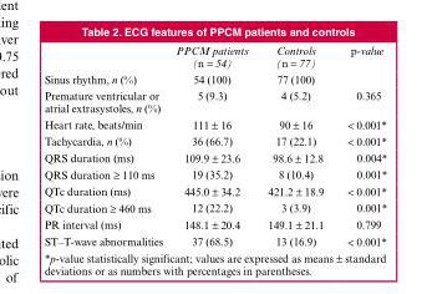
<table><thead><tr><td></td><td>PPCM patients (n = 54)</td><td>Controls (n = 77)</td><td>p-value</td></tr></thead><tbody><tr><td>Sinus rhythm, n (%)</td><td>54 (100)</td><td>77 (100)</td><td></td></tr><tr><td>Premature ventricular or atrial extrasystoles, n (%)</td><td>5 (9.3)</td><td>4 (5.2)</td><td>0.365</td></tr><tr><td>Heart rate, beats/min</td><td>111 ± 16</td><td>90 ± 16</td><td>&lt; 0.001*</td></tr><tr><td>Tachycardia, n (%)</td><td>36 (66.7)</td><td>17 (22.1)</td><td>&lt; 0.001*</td></tr><tr><td>QRS duration (ms)</td><td>109.9 ± 23.6</td><td>98.6 ± 12.8</td><td>0.004*</td></tr><tr><td>QRS duration ≥ 110 ms</td><td>19 (35.2)</td><td>8 (10.4)</td><td>0.001*</td></tr><tr><td>QTc duration (ms)</td><td>445.0 ± 34.2</td><td>421.2 ± 18.9</td><td>&lt; 0.001*</td></tr><tr><td>QTc duration ≥ 460 ms</td><td>12 (22.2)</td><td>3 (3.9)</td><td>0.001*</td></tr><tr><td>PR interval (ms)</td><td>148.1 ± 20.4</td><td>149.1 ± 21.1</td><td>0.799</td></tr><tr><td>ST–T-wave abnormalities</td><td>37 (68.5)</td><td>13 (16.9)</td><td>&lt; 0.001*</td></tr></tbody></table>